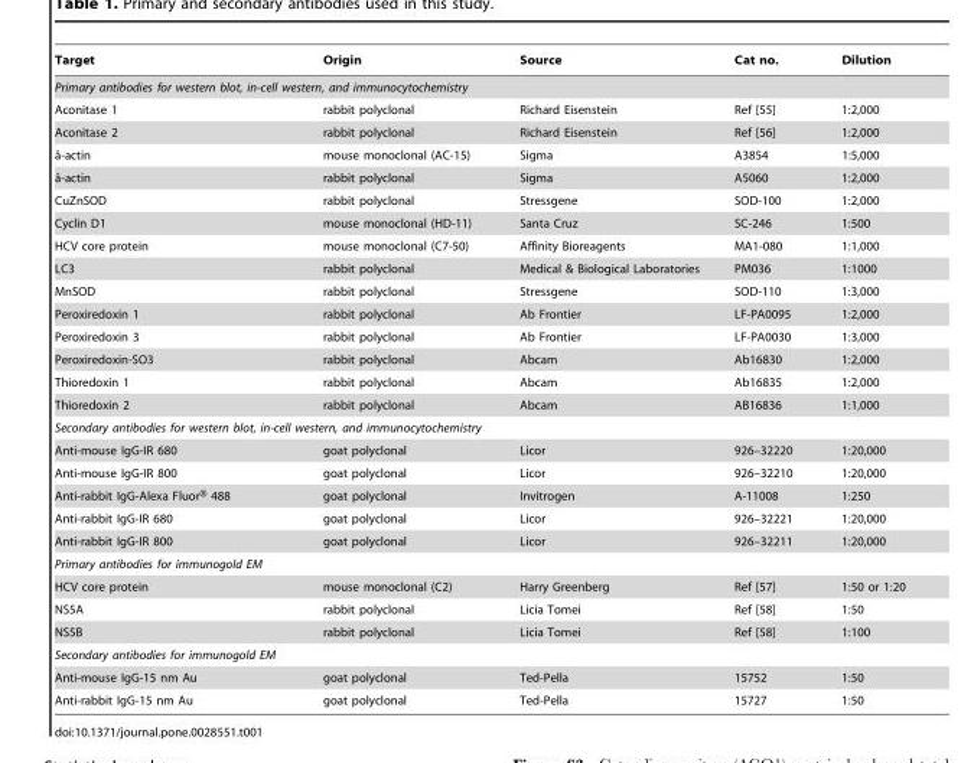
<table><thead><tr><td>Target</td><td>Origin</td><td>Source</td><td>Cat no.</td><td>Dilution</td></tr></thead><tbody><tr><td colspan="5">Primary antibodies for western blot, in-cell western, and immunocytochemistry</td></tr><tr><td>Aconitase 1</td><td>rabbit polyclonal</td><td>Richard Eisenstein</td><td>Ref [55]</td><td>1:2,000</td></tr><tr><td>Aconitase 2</td><td>rabbit polyclonal</td><td>Richard Eisenstein</td><td>Ref [56]</td><td>1:2,000</td></tr><tr><td>aˆ-actin</td><td>mouse monoclonal (AC-15)</td><td>Sigma</td><td>A3854</td><td>1:5,000</td></tr><tr><td>aˆ-actin</td><td>rabbit polyclonal</td><td>Sigma</td><td>A5060</td><td>1:2,000</td></tr><tr><td>CuZnSOD</td><td>rabbit polyclonal</td><td>Stressgene</td><td>SOD-100</td><td>1:2,000</td></tr><tr><td>Cyclin D1</td><td>mouse monoclonal (HD-11)</td><td>Santa Cruz</td><td>SC-246</td><td>1:500</td></tr><tr><td>HCV core protein</td><td>mouse monoclonal (C7-50)</td><td>Affinity Bioreagents</td><td>MA1-080</td><td>1:1,000</td></tr><tr><td>LC3</td><td>rabbit polyclonal</td><td>Medical &amp; Biological Laboratories</td><td>PM036</td><td>1:1000</td></tr><tr><td>MnSOD</td><td>rabbit polyclonal</td><td>Stressgene</td><td>SOD-110</td><td>1:3,000</td></tr><tr><td>Peroxiredoxin 1</td><td>rabbit polyclonal</td><td>Ab Frontier</td><td>LF-PA0095</td><td>1:2,000</td></tr><tr><td>Peroxiredoxin 3</td><td>rabbit polyclonal</td><td>Ab Frontier</td><td>LF-PA0030</td><td>1:3,000</td></tr><tr><td>Peroxiredoxin-SO3</td><td>rabbit polyclonal</td><td>Abcam</td><td>Ab16830</td><td>1:2,000</td></tr><tr><td>Thioredoxin 1</td><td>rabbit polyclonal</td><td>Abcam</td><td>Ab16835</td><td>1:2,000</td></tr><tr><td>Thioredoxin 2</td><td>rabbit polyclonal</td><td>Abcam</td><td>AB16836</td><td>1:1,000</td></tr><tr><td colspan="5">Secondary antibodies for western blot, in-cell western, and immunocytochemistry</td></tr><tr><td>Anti-mouse IgG-IR 680</td><td>goat polyclonal</td><td>Licor</td><td>926–32220</td><td>1:20,000</td></tr><tr><td>Anti-mouse IgG-IR 800</td><td>goat polyclonal</td><td>Licor</td><td>926–32210</td><td>1:20,000</td></tr><tr><td>Anti-rabbit IgG-Alexa Fluor® 488</td><td>goat polyclonal</td><td>Invitrogen</td><td>A-11008</td><td>1:250</td></tr><tr><td>Anti-rabbit IgG-IR 680</td><td>goat polyclonal</td><td>Licor</td><td>926–32221</td><td>1:20,000</td></tr><tr><td>Anti-rabbit IgG-IR 800</td><td>goat polyclonal</td><td>Licor</td><td>926–32211</td><td>1:20,000</td></tr><tr><td colspan="5">Primary antibodies for immunogold EM</td></tr><tr><td>HCV core protein</td><td>mouse monoclonal (C2)</td><td>Harry Greenberg</td><td>Ref [57]</td><td>1:50 or 1:20</td></tr><tr><td>NS5A</td><td>rabbit polyclonal</td><td>Licia Tomei</td><td>Ref [58]</td><td>1:50</td></tr><tr><td>NS5B</td><td>rabbit polyclonal</td><td>Licia Tomei</td><td>Ref [58]</td><td>1:100</td></tr><tr><td colspan="5">Secondary antibodies for immunogold EM</td></tr><tr><td>Anti-mouse IgG-15 nm Au</td><td>goat polyclonal</td><td>Ted-Pella</td><td>15752</td><td>1:50</td></tr><tr><td>Anti-rabbit IgG-15 nm Au</td><td>goat polyclonal</td><td>Ted-Pella</td><td>15727</td><td>1:50</td></tr></tbody></table>